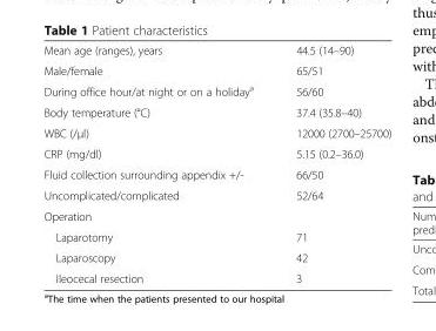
<table><tbody><tr><td>Mean age (ranges), years</td><td>44.5 (14–90)</td></tr><tr><td>Male/female</td><td>65/51</td></tr><tr><td>During office hour/at night or on a holiday<sup>a</sup></td><td>56/60</td></tr><tr><td>Body temperature (°C)</td><td>37.4 (35.8–40)</td></tr><tr><td>WBC (/μl)</td><td>12000 (2700–25700)</td></tr><tr><td>CRP (mg/dl)</td><td>5.15 (0.2–36.0)</td></tr><tr><td>Fluid collection surrounding appendix +/-</td><td>66/50</td></tr><tr><td>Uncomplicated/complicated</td><td>52/64</td></tr><tr><td colspan="2">Operation</td></tr><tr><td>Laparotomy</td><td>71</td></tr><tr><td>Laparoscopy</td><td>42</td></tr><tr><td>Ileocecal resection</td><td>3</td></tr></tbody></table>